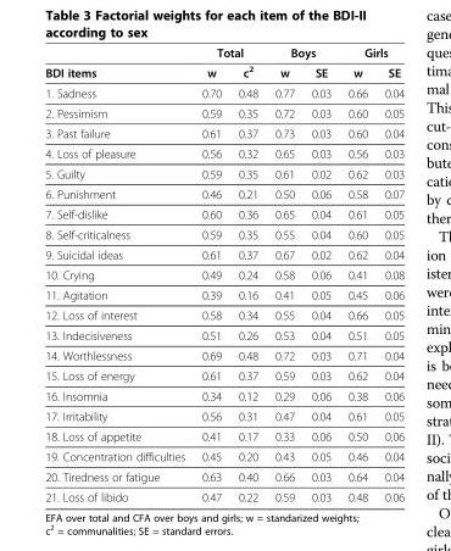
<table><thead><tr><td rowspan="2">BDI items</td><td colspan="2">Total</td><td colspan="2">Boys</td><td colspan="2">Girls</td></tr><tr><td>w</td><td>c<sup>2</sup></td><td>w</td><td>SE</td><td>w</td><td>SE</td></tr></thead><tbody><tr><td>1. Sadness</td><td>0.70</td><td>0.48</td><td>0.77</td><td>0.03</td><td>0.66</td><td>0.04</td></tr><tr><td>2. Pessimism</td><td>0.59</td><td>0.35</td><td>0.72</td><td>0.03</td><td>0.60</td><td>0.05</td></tr><tr><td>3. Past failure</td><td>0.61</td><td>0.37</td><td>0.73</td><td>0.03</td><td>0.60</td><td>0.04</td></tr><tr><td>4. Loss of pleasure</td><td>0.56</td><td>0.32</td><td>0.65</td><td>0.03</td><td>0.56</td><td>0.03</td></tr><tr><td>5. Guilty</td><td>0.59</td><td>0.35</td><td>0.61</td><td>0.02</td><td>0.62</td><td>0.03</td></tr><tr><td>6. Punishment</td><td>0.46</td><td>0.21</td><td>0.50</td><td>0.06</td><td>0.58</td><td>0.07</td></tr><tr><td>7. Self-dislike</td><td>0.60</td><td>0.36</td><td>0.65</td><td>0.04</td><td>0.61</td><td>0.05</td></tr><tr><td>8. Self-criticalness</td><td>0.59</td><td>0.35</td><td>0.55</td><td>0.04</td><td>0.60</td><td>0.05</td></tr><tr><td>9. Suicidal ideas</td><td>0.61</td><td>0.37</td><td>0.67</td><td>0.02</td><td>0.62</td><td>0.04</td></tr><tr><td>10. Crying</td><td>0.49</td><td>0.24</td><td>0.58</td><td>0.06</td><td>0.41</td><td>0.08</td></tr><tr><td>11. Agitation</td><td>0.39</td><td>0.16</td><td>0.41</td><td>0.05</td><td>0.45</td><td>0.06</td></tr><tr><td>12. Loss of interest</td><td>0.58</td><td>0.34</td><td>0.55</td><td>0.04</td><td>0.66</td><td>0.05</td></tr><tr><td>13. Indecisiveness</td><td>0.51</td><td>0.26</td><td>0.53</td><td>0.04</td><td>0.51</td><td>0.05</td></tr><tr><td>14. Worthlessness</td><td>0.69</td><td>0.48</td><td>0.72</td><td>0.03</td><td>0.71</td><td>0.04</td></tr><tr><td>15. Loss of energy</td><td>0.61</td><td>0.37</td><td>0.59</td><td>0.03</td><td>0.62</td><td>0.04</td></tr><tr><td>16. Insomnia</td><td>0.34</td><td>0.12</td><td>0.29</td><td>0.06</td><td>0.38</td><td>0.06</td></tr><tr><td>17. Irritability</td><td>0.56</td><td>0.31</td><td>0.47</td><td>0.04</td><td>0.61</td><td>0.05</td></tr><tr><td>18. Loss of appetite</td><td>0.41</td><td>0.17</td><td>0.33</td><td>0.06</td><td>0.50</td><td>0.06</td></tr><tr><td>19. Concentration difficulties</td><td>0.45</td><td>0.20</td><td>0.43</td><td>0.05</td><td>0.46</td><td>0.04</td></tr><tr><td>20. Tiredness or fatigue</td><td>0.63</td><td>0.40</td><td>0.66</td><td>0.03</td><td>0.64</td><td>0.04</td></tr><tr><td>21. Loss of libido</td><td>0.47</td><td>0.22</td><td>0.59</td><td>0.03</td><td>0.48</td><td>0.06</td></tr></tbody></table>